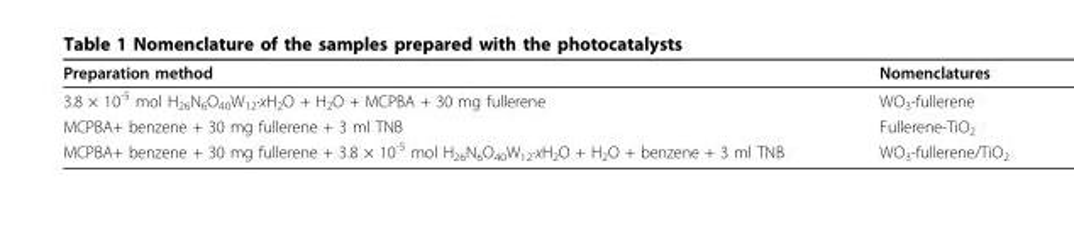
<table><thead><tr><td>Preparation method</td><td>Nomenclatures</td></tr></thead><tbody><tr><td>3.8 × 10<sup>-5</sup> mol H<sub>26</sub>N<sub>6</sub>O<sub>40</sub>W<sub>12</sub>·xH<sub>2</sub>O + H<sub>2</sub>O + MCPBA + 30 mg fullerene</td><td>WO<sub>3</sub>-fullerene</td></tr><tr><td>MCPBA+ benzene + 30 mg fullerene + 3 ml TNB</td><td>Fullerene-TiO<sub>2</sub></td></tr><tr><td>MCPBA+ benzene + 30 mg fullerene + 3.8 × 10<sup>-5</sup> mol H<sub>26</sub>N<sub>6</sub>O<sub>40</sub>W<sub>12</sub>·xH<sub>2</sub>O + H<sub>2</sub>O + benzene + 3 ml TNB</td><td>WO<sub>3</sub>-fullerene/TiO<sub>2</sub></td></tr></tbody></table>